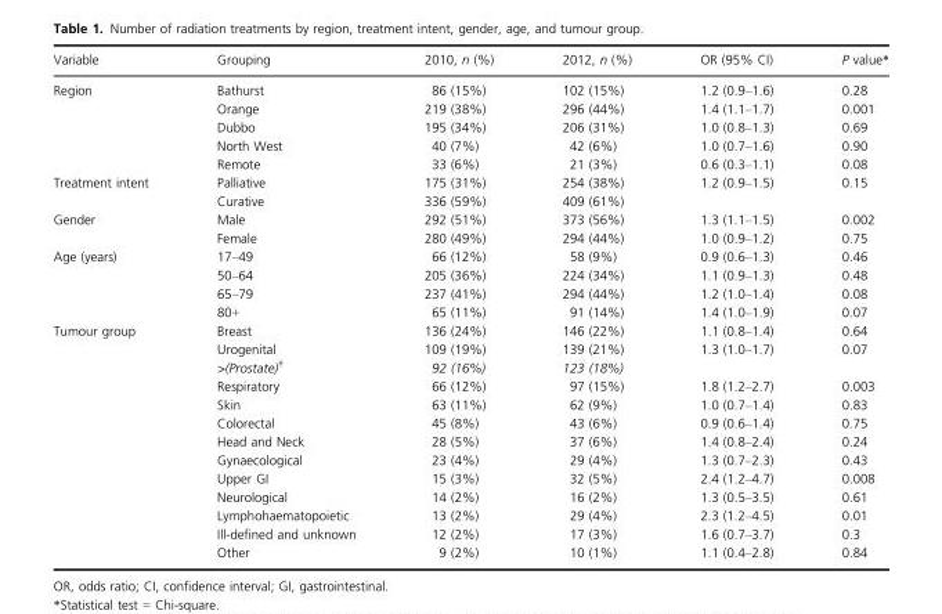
<table><thead><tr><td>Variable</td><td>Grouping</td><td>2010, n (%)</td><td>2012, n (%)</td><td>OR (95% CI)</td><td>P value*</td></tr></thead><tbody><tr><td rowspan="5">Region</td><td>Bathurst</td><td>86 (15%)</td><td>102 (15%)</td><td>1.2 (0.9–1.6)</td><td>0.28</td></tr><tr><td>Orange</td><td>219 (38%)</td><td>296 (44%)</td><td>1.4 (1.1–1.7)</td><td>0.001</td></tr><tr><td>Dubbo</td><td>195 (34%)</td><td>206 (31%)</td><td>1.0 (0.8–1.3)</td><td>0.69</td></tr><tr><td>North West</td><td>40 (7%)</td><td>42 (6%)</td><td>1.0 (0.7–1.6)</td><td>0.90</td></tr><tr><td>Remote</td><td>33 (6%)</td><td>21 (3%)</td><td>0.6 (0.3–1.1)</td><td>0.08</td></tr><tr><td rowspan="2">Treatment intent</td><td>Palliative</td><td>175 (31%)</td><td>254 (38%)</td><td>1.2 (0.9–1.5)</td><td>0.15</td></tr><tr><td>Curative</td><td>336 (59%)</td><td>409 (61%)</td><td></td><td></td></tr><tr><td rowspan="2">Gender</td><td>Male</td><td>292 (51%)</td><td>373 (56%)</td><td>1.3 (1.1–1.5)</td><td>0.002</td></tr><tr><td>Female</td><td>280 (49%)</td><td>294 (44%)</td><td>1.0 (0.9–1.2)</td><td>0.75</td></tr><tr><td rowspan="4">Age (years)</td><td>17–49</td><td>66 (12%)</td><td>58 (9%)</td><td>0.9 (0.6–1.3)</td><td>0.46</td></tr><tr><td>50–64</td><td>205 (36%)</td><td>224 (34%)</td><td>1.1 (0.9–1.3)</td><td>0.48</td></tr><tr><td>65–79</td><td>237 (41%)</td><td>294 (44%)</td><td>1.2 (1.0–1.4)</td><td>0.08</td></tr><tr><td>80+</td><td>65 (11%)</td><td>91 (14%)</td><td>1.4 (1.0–1.9)</td><td>0.07</td></tr><tr><td rowspan="13">Tumour group</td><td>Breast</td><td>136 (24%)</td><td>146 (22%)</td><td>1.1 (0.8–1.4)</td><td>0.64</td></tr><tr><td>Urogenital</td><td>109 (19%)</td><td>139 (21%)</td><td>1.3 (1.0–1.7)</td><td>0.07</td></tr><tr><td>&gt;(Prostate)†</td><td>92 (16%)</td><td>123 (18%)</td><td></td><td></td></tr><tr><td>Respiratory</td><td>66 (12%)</td><td>97 (15%)</td><td>1.8 (1.2–2.7)</td><td>0.003</td></tr><tr><td>Skin</td><td>63 (11%)</td><td>62 (9%)</td><td>1.0 (0.7–1.4)</td><td>0.83</td></tr><tr><td>Colorectal</td><td>45 (8%)</td><td>43 (6%)</td><td>0.9 (0.6–1.4)</td><td>0.75</td></tr><tr><td>Head and Neck</td><td>28 (5%)</td><td>37 (6%)</td><td>1.4 (0.8–2.4)</td><td>0.24</td></tr><tr><td>Gynaecological</td><td>23 (4%)</td><td>29 (4%)</td><td>1.3 (0.7–2.3)</td><td>0.43</td></tr><tr><td>Upper GI</td><td>15 (3%)</td><td>32 (5%)</td><td>2.4 (1.2–4.7)</td><td>0.008</td></tr><tr><td>Neurological</td><td>14 (2%)</td><td>16 (2%)</td><td>1.3 (0.5–3.5)</td><td>0.61</td></tr><tr><td>Lymphohaematopoietic</td><td>13 (2%)</td><td>29 (4%)</td><td>2.3 (1.2–4.5)</td><td>0.01</td></tr><tr><td>Ill-defined and unknown</td><td>12 (2%)</td><td>17 (3%)</td><td>1.6 (0.7–3.7)</td><td>0.3</td></tr><tr><td>Other</td><td>9 (2%)</td><td>10 (1%)</td><td>1.1 (0.4–2.8)</td><td>0.84</td></tr></tbody></table>